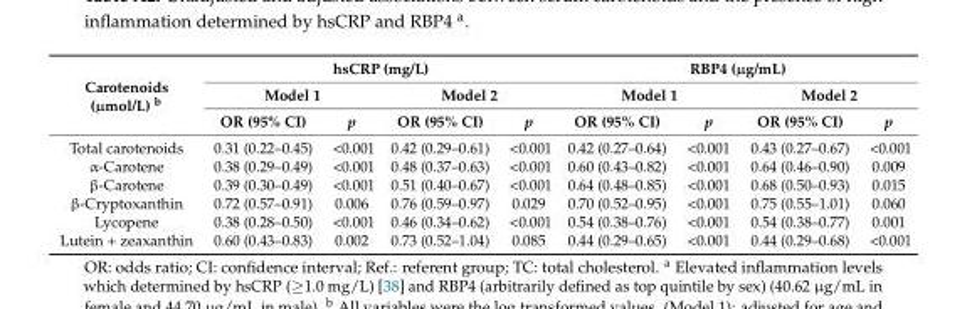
<table><thead><tr><td rowspan="3">Carotenoids (µmol/L) <sup>b</sup></td><td colspan="4">hsCRP (mg/L)</td><td colspan="4">RBP4 (µg/mL)</td></tr><tr><td colspan="2">Model 1</td><td colspan="2">Model 2</td><td colspan="2">Model 1</td><td colspan="2">Model 2</td></tr><tr><td>OR (95% CI)</td><td>p</td><td>OR (95% CI)</td><td>p</td><td>OR (95% CI)</td><td>p</td><td>OR (95% CI)</td><td>p</td></tr></thead><tbody><tr><td>Total carotenoids</td><td>0.31 (0.22–0.45)</td><td>&lt;0.001</td><td>0.42 (0.29–0.61)</td><td>&lt;0.001</td><td>0.42 (0.27–0.64)</td><td>&lt;0.001</td><td>0.43 (0.27–0.67)</td><td>&lt;0.001</td></tr><tr><td>α-Carotene</td><td>0.38 (0.29–0.49)</td><td>&lt;0.001</td><td>0.48 (0.37–0.63)</td><td>&lt;0.001</td><td>0.60 (0.43–0.82)</td><td>&lt;0.001</td><td>0.64 (0.46–0.90)</td><td>0.009</td></tr><tr><td>β-Carotene</td><td>0.39 (0.30–0.49)</td><td>&lt;0.001</td><td>0.51 (0.40–0.67)</td><td>&lt;0.001</td><td>0.64 (0.48–0.85)</td><td>&lt;0.001</td><td>0.68 (0.50–0.93)</td><td>0.015</td></tr><tr><td>β-Cryptoxanthin</td><td>0.72 (0.57–0.91)</td><td>0.006</td><td>0.76 (0.59–0.97)</td><td>0.029</td><td>0.70 (0.52–0.95)</td><td>&lt;0.001</td><td>0.75 (0.55–1.01)</td><td>0.060</td></tr><tr><td>Lycopene</td><td>0.38 (0.28–0.50)</td><td>&lt;0.001</td><td>0.46 (0.34–0.62)</td><td>&lt;0.001</td><td>0.54 (0.38–0.76)</td><td>&lt;0.001</td><td>0.54 (0.38–0.77)</td><td>0.001</td></tr><tr><td>Lutein + zeaxanthin</td><td>0.60 (0.43–0.83)</td><td>0.002</td><td>0.73 (0.52–1.04)</td><td>0.085</td><td>0.44 (0.29–0.65)</td><td>&lt;0.001</td><td>0.44 (0.29–0.68)</td><td>&lt;0.001</td></tr></tbody></table>